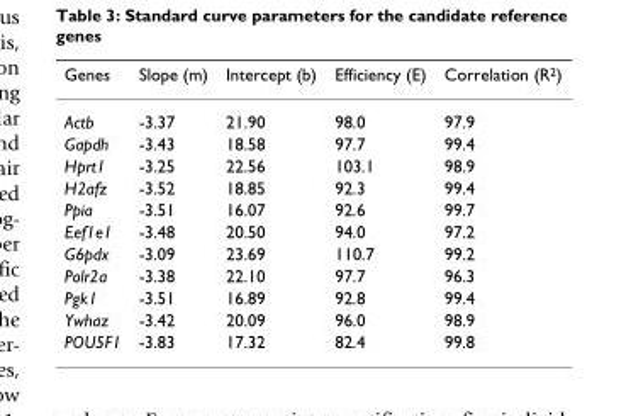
<table><thead><tr><td>Genes</td><td>Slope (m)</td><td>Intercept (b)</td><td>Efficiency (E)</td><td>Correlation (R<sup>2</sup>)</td></tr></thead><tbody><tr><td>Actb</td><td>-3.37</td><td>21.90</td><td>98.0</td><td>97.9</td></tr><tr><td>Gapdh</td><td>-3.43</td><td>18.58</td><td>97.7</td><td>99.4</td></tr><tr><td>Hprt1</td><td>-3.25</td><td>22.56</td><td>103.1</td><td>98.9</td></tr><tr><td>H2afz</td><td>-3.52</td><td>18.85</td><td>92.3</td><td>99.4</td></tr><tr><td>Ppia</td><td>-3.51</td><td>16.07</td><td>92.6</td><td>99.7</td></tr><tr><td>Eef1e1</td><td>-3.48</td><td>20.50</td><td>94.0</td><td>97.2</td></tr><tr><td>G6pdx</td><td>-3.09</td><td>23.69</td><td>110.7</td><td>99.2</td></tr><tr><td>Polr2a</td><td>-3.38</td><td>22.10</td><td>97.7</td><td>96.3</td></tr><tr><td>Pgk1</td><td>-3.51</td><td>16.89</td><td>92.8</td><td>99.4</td></tr><tr><td>Ywhaz</td><td>-3.42</td><td>20.09</td><td>96.0</td><td>98.9</td></tr><tr><td>POU5F1</td><td>-3.83</td><td>17.32</td><td>82.4</td><td>99.8</td></tr></tbody></table>